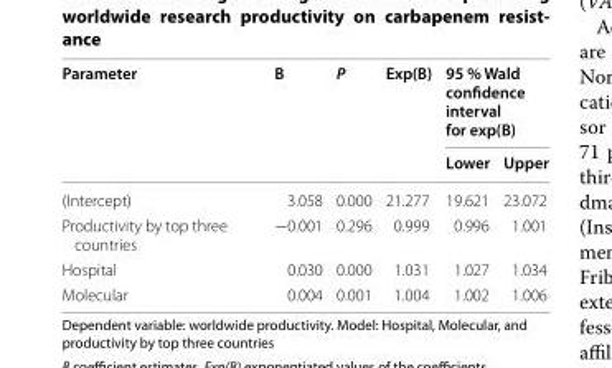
<table><thead><tr><td rowspan="2">Parameter</td><td rowspan="2">B</td><td rowspan="2">P</td><td rowspan="2">Exp(B)</td><td colspan="2">95 % Wald confidence interval for exp(B)</td></tr><tr><td>Lower</td><td>Upper</td></tr></thead><tbody><tr><td>(Intercept)</td><td>3.058</td><td>0.000</td><td>21.277</td><td>19.621</td><td>23.072</td></tr><tr><td>Productivity by top three countries</td><td>−0.001</td><td>0.296</td><td>0.999</td><td>0.996</td><td>1.001</td></tr><tr><td>Hospital</td><td>0.030</td><td>0.000</td><td>1.031</td><td>1.027</td><td>1.034</td></tr><tr><td>Molecular</td><td>0.004</td><td>0.001</td><td>1.004</td><td>1.002</td><td>1.006</td></tr></tbody></table>